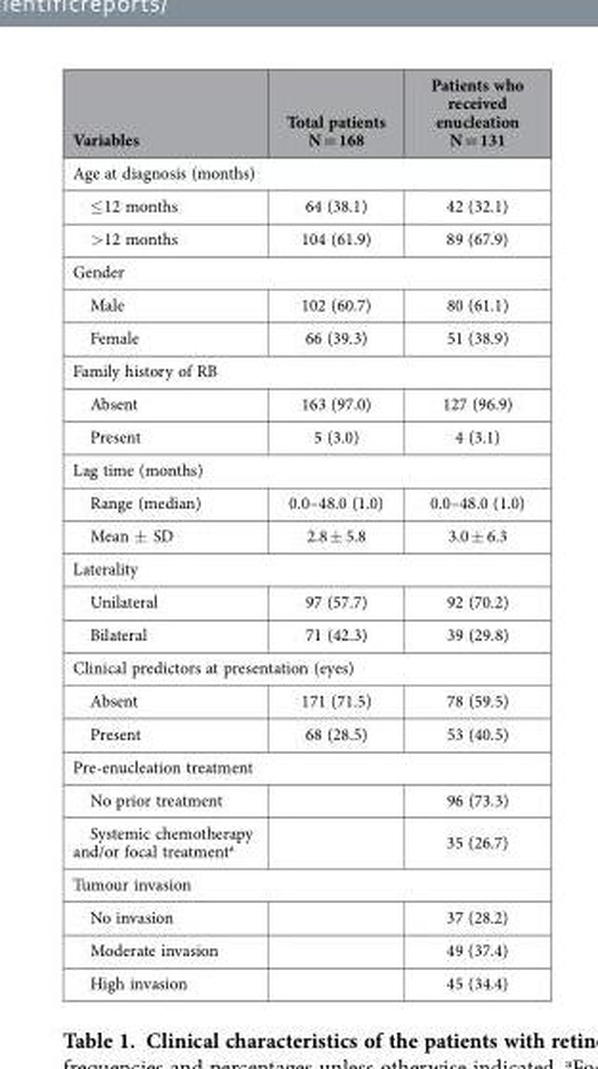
<table><thead><tr><td>Variables</td><td>Total patients N = 168</td><td>Patients who received enucleation N = 131</td></tr></thead><tbody><tr><td colspan="3">Age at diagnosis (months)</td></tr><tr><td>≤ 12 months</td><td>64 (38.1)</td><td>42 (32.1)</td></tr><tr><td>&gt; 12 months</td><td>104 (61.9)</td><td>89 (67.9)</td></tr><tr><td colspan="3">Gender</td></tr><tr><td>Male</td><td>102 (60.7)</td><td>80 (61.1)</td></tr><tr><td>Female</td><td>66 (39.3)</td><td>51 (38.9)</td></tr><tr><td colspan="3">Family history of RB</td></tr><tr><td>Absent</td><td>163 (97.0)</td><td>127 (96.9)</td></tr><tr><td>Present</td><td>5 (3.0)</td><td>4 (3.1)</td></tr><tr><td colspan="3">Lag time (months)</td></tr><tr><td>Range (median)</td><td>0.0–48.0 (1.0)</td><td>0.0–48.0 (1.0)</td></tr><tr><td>Mean ± SD</td><td>2.8 ± 5.8</td><td>3.0 ± 6.3</td></tr><tr><td colspan="3">Laterality</td></tr><tr><td>Unilateral</td><td>97 (57.7)</td><td>92 (70.2)</td></tr><tr><td>Bilateral</td><td>71 (42.3)</td><td>39 (29.8)</td></tr><tr><td colspan="3">Clinical predictors at presentation (eyes)</td></tr><tr><td>Absent</td><td>171 (71.5)</td><td>78 (59.5)</td></tr><tr><td>Present</td><td>68 (28.5)</td><td>53 (40.5)</td></tr><tr><td colspan="3">Pre-enucleation treatment</td></tr><tr><td>No prior treatment</td><td></td><td>96 (73.3)</td></tr><tr><td>Systemic chemotherapy and/or focal treatment<sup>a</sup></td><td></td><td>35 (26.7)</td></tr><tr><td colspan="3">Tumour invasion</td></tr><tr><td>No invasion</td><td></td><td>37 (28.2)</td></tr><tr><td>Moderate invasion</td><td></td><td>49 (37.4)</td></tr><tr><td>High invasion</td><td></td><td>45 (34.4)</td></tr></tbody></table>